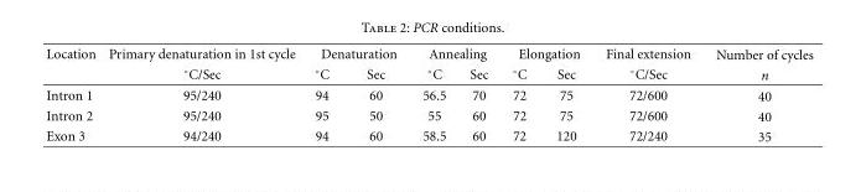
<table><thead><tr><td rowspan="2">Location</td><td rowspan="2">Primary denaturation in 1st cycle ◦C/Sec</td><td colspan="2">Denaturation</td><td colspan="2">Annealing</td><td colspan="2">Elongation</td><td rowspan="2">Final extension ◦C/Sec</td><td rowspan="2">Number of cycles n</td></tr><tr><td>◦C</td><td>Sec</td><td>◦C</td><td>Sec</td><td>◦C</td><td>Sec</td></tr></thead><tbody><tr><td>Intron 1</td><td>95/240</td><td>94</td><td>60</td><td>56.5</td><td>70</td><td>72</td><td>75</td><td>72/600</td><td>40</td></tr><tr><td>Intron 2</td><td>95/240</td><td>95</td><td>50</td><td>55</td><td>60</td><td>72</td><td>75</td><td>72/600</td><td>40</td></tr><tr><td>Exon 3</td><td>94/240</td><td>94</td><td>60</td><td>58.5</td><td>60</td><td>72</td><td>120</td><td>72/240</td><td>35</td></tr></tbody></table>